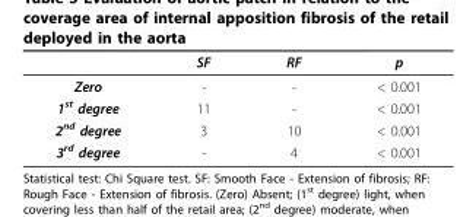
<table><thead><tr><td></td><td>SF</td><td>RF</td><td>p</td></tr></thead><tbody><tr><td>Zero</td><td>-</td><td>-</td><td>&lt; 0.001</td></tr><tr><td>1<sup>st</sup> degree</td><td>11</td><td>-</td><td>&lt; 0.001</td></tr><tr><td>2<sup>nd</sup> degree</td><td>3</td><td>10</td><td>&lt; 0.001</td></tr><tr><td>3<sup>rd</sup> degree</td><td>-</td><td>4</td><td>&lt; 0.001</td></tr></tbody></table>